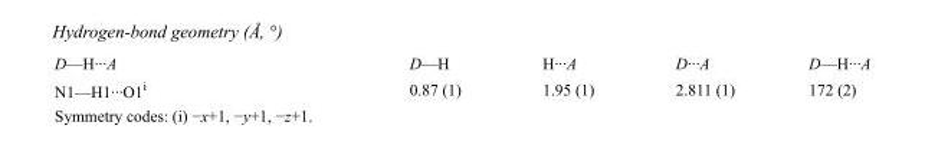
<table><tbody><tr><td>D—H···A</td><td>D—H</td><td>H···A</td><td>D···A</td><td>D—H···A</td></tr><tr><td>N1—H1···O1<sup>i</sup></td><td>0.87 (1)</td><td>1.95 (1)</td><td>2.811 (1)</td><td>172 (2)</td></tr></tbody></table>